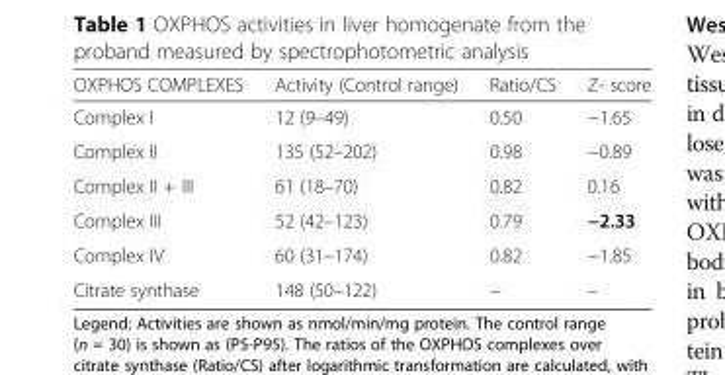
<table><thead><tr><td>OXPHOS COMPLEXES</td><td>Activity (Control range)</td><td>Ratio/CS</td><td>Z- score</td></tr></thead><tbody><tr><td>Complex I</td><td>12 (9–49)</td><td>0.50</td><td>−1.65</td></tr><tr><td>Complex II</td><td>135 (52–202)</td><td>0.98</td><td>−0.89</td></tr><tr><td>Complex II + III</td><td>61 (18–70)</td><td>0.82</td><td>0.16</td></tr><tr><td>Complex III</td><td>52 (42–123)</td><td>0.79</td><td>−2.33</td></tr><tr><td>Complex IV</td><td>60 (31–174)</td><td>0.82</td><td>−1.85</td></tr><tr><td>Citrate synthase</td><td>148 (50–122)</td><td>–</td><td>–</td></tr></tbody></table>